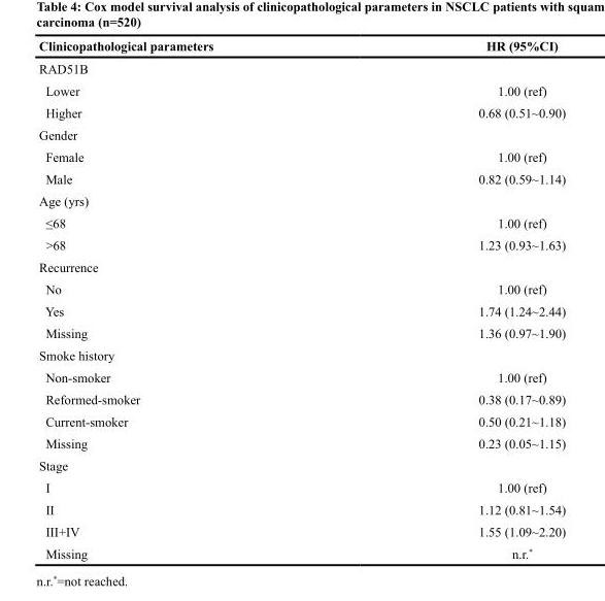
<table><thead><tr><td>Clinicopathological parameters</td><td>HR (95%CI)</td></tr></thead><tbody><tr><td colspan="2">RAD51B</td></tr><tr><td>Lower</td><td>1.00 (ref)</td></tr><tr><td>Higher</td><td>0.68 (0.51~0.90)</td></tr><tr><td colspan="2">Gender</td></tr><tr><td>Female</td><td>1.00 (ref)</td></tr><tr><td>Male</td><td>0.82 (0.59~1.14)</td></tr><tr><td colspan="2">Age (yrs)</td></tr><tr><td>≤68</td><td>1.00 (ref)</td></tr><tr><td>&gt;68</td><td>1.23 (0.93~1.63)</td></tr><tr><td colspan="2">Recurrence</td></tr><tr><td>No</td><td>1.00 (ref)</td></tr><tr><td>Yes</td><td>1.74 (1.24~2.44)</td></tr><tr><td>Missing</td><td>1.36 (0.97~1.90)</td></tr><tr><td colspan="2">Smoke history</td></tr><tr><td>Non-smoker</td><td>1.00 (ref)</td></tr><tr><td>Reformed-smoker</td><td>0.38 (0.17~0.89)</td></tr><tr><td>Current-smoker</td><td>0.50 (0.21~1.18)</td></tr><tr><td>Missing</td><td>0.23 (0.05~1.15)</td></tr><tr><td colspan="2">Stage</td></tr><tr><td>I</td><td>1.00 (ref)</td></tr><tr><td>II</td><td>1.12 (0.81~1.54)</td></tr><tr><td>III+IV</td><td>1.55 (1.09~2.20)</td></tr><tr><td>Missing</td><td>n.r.*</td></tr></tbody></table>